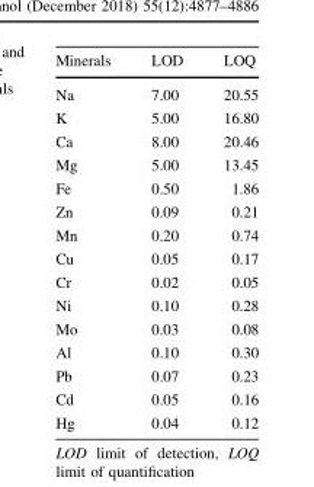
<table><thead><tr><td>Minerals</td><td>LOD</td><td>LOQ</td></tr></thead><tbody><tr><td>Na</td><td>7.00</td><td>20.55</td></tr><tr><td>K</td><td>5.00</td><td>16.80</td></tr><tr><td>Ca</td><td>8.00</td><td>20.46</td></tr><tr><td>Mg</td><td>5.00</td><td>13.45</td></tr><tr><td>Fe</td><td>0.50</td><td>1.86</td></tr><tr><td>Zn</td><td>0.09</td><td>0.21</td></tr><tr><td>Mn</td><td>0.20</td><td>0.74</td></tr><tr><td>Cu</td><td>0.05</td><td>0.17</td></tr><tr><td>Cr</td><td>0.02</td><td>0.05</td></tr><tr><td>Ni</td><td>0.10</td><td>0.28</td></tr><tr><td>Mo</td><td>0.03</td><td>0.08</td></tr><tr><td>Al</td><td>0.10</td><td>0.30</td></tr><tr><td>Pb</td><td>0.07</td><td>0.23</td></tr><tr><td>Cd</td><td>0.05</td><td>0.16</td></tr><tr><td>Hg</td><td>0.04</td><td>0.12</td></tr></tbody></table>